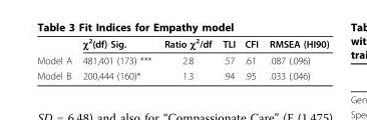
<table><thead><tr><td></td><td>χ<sup>2</sup>(df) Sig.</td><td>Ratio χ<sup>2</sup>/df</td><td>TLI</td><td>CFI</td><td>RMSEA (HI90)</td></tr></thead><tbody><tr><td>Model A</td><td>481,401 (173) ***</td><td>2.8</td><td>.57</td><td>.61</td><td>.087 (.096)</td></tr><tr><td>Model B</td><td>200,444 (160)*</td><td>1.3</td><td>.94</td><td>.95</td><td>.033 (.046)</td></tr></tbody></table>